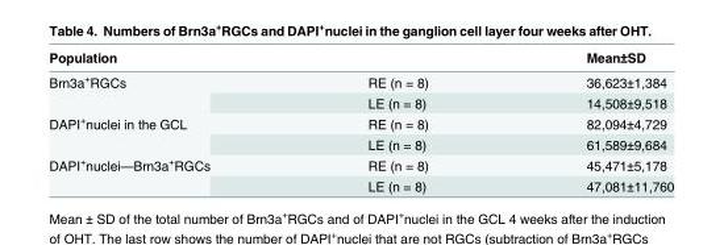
<table><thead><tr><td>Population</td><td></td><td>Mean±SD</td></tr></thead><tbody><tr><td rowspan="2">Brn3a<sup>+</sup>RGCs</td><td>RE (n = 8)</td><td>36,623±1,384</td></tr><tr><td>LE (n = 8)</td><td>14,508±9,518</td></tr><tr><td rowspan="2">DAPI<sup>+</sup>nuclei in the GCL</td><td>RE (n = 8)</td><td>82,094±4,729</td></tr><tr><td>LE (n = 8)</td><td>61,589±9,684</td></tr><tr><td rowspan="2">DAPI<sup>+</sup>nuclei—Brn3a<sup>+</sup>RGCs</td><td>RE (n = 8)</td><td>45,471±5,178</td></tr><tr><td>LE (n = 8)</td><td>47,081±11,760</td></tr></tbody></table>